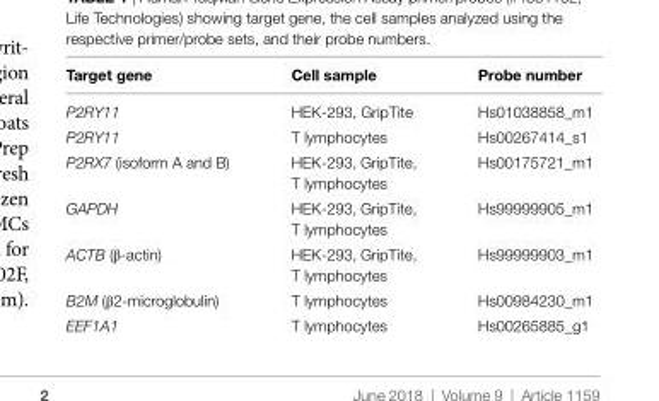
<table><thead><tr><td>Target gene</td><td>cell sample</td><td>Probe number</td></tr></thead><tbody><tr><td>P2RY11</td><td>HEK-293, GripTite</td><td>Hs01038858_m1</td></tr><tr><td>P2RY11</td><td>T lymphocytes</td><td>Hs00267414_s1</td></tr><tr><td>P2RX7 (isoform A and B)</td><td>HEK-293, GripTite, T lymphocytes</td><td>Hs00175721_m1</td></tr><tr><td>GAPDH</td><td>HEK-293, GripTite, T lymphocytes</td><td>Hs99999905_m1</td></tr><tr><td>ACTB (β-actin)</td><td>HEK-293, GripTite, T lymphocytes</td><td>Hs99999903_m1</td></tr><tr><td>B2M (β2-microglobulin)</td><td>T lymphocytes</td><td>Hs00984230_m1</td></tr><tr><td>EEF1A1</td><td>T lymphocytes</td><td>Hs00265885_g1</td></tr></tbody></table>